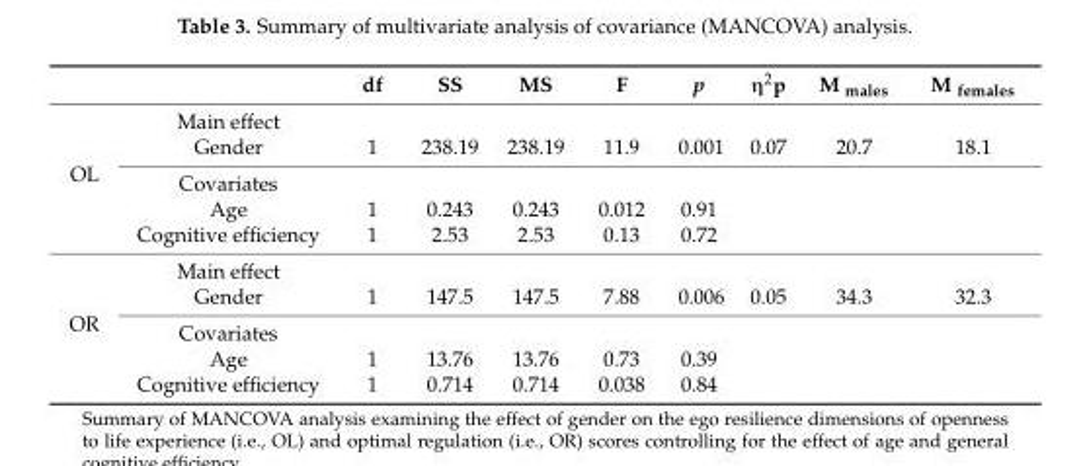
<table><thead><tr><td></td><td></td><td>df</td><td>SS</td><td>MS</td><td>F</td><td>p</td><td>η<sup>2</sup>p</td><td>M <sub>males</sub></td><td>M <sub>females</sub></td></tr></thead><tbody><tr><td rowspan="5">OL</td><td>Main effect</td><td></td><td></td><td></td><td></td><td></td><td></td><td></td><td></td></tr><tr><td>Gender</td><td>1</td><td>238.19</td><td>238.19</td><td>11.9</td><td>0.001</td><td>0.07</td><td>20.7</td><td>18.1</td></tr><tr><td>Covariates</td><td></td><td></td><td></td><td></td><td></td><td></td><td></td><td></td></tr><tr><td>Age</td><td>1</td><td>0.243</td><td>0.243</td><td>0.012</td><td>0.91</td><td></td><td></td><td></td></tr><tr><td>Cognitive efficiency</td><td>1</td><td>2.53</td><td>2.53</td><td>0.13</td><td>0.72</td><td></td><td></td><td></td></tr><tr><td rowspan="5">OR</td><td>Main effect</td><td></td><td></td><td></td><td></td><td></td><td></td><td></td><td></td></tr><tr><td>Gender</td><td>1</td><td>147.5</td><td>147.5</td><td>7.88</td><td>0.006</td><td>0.05</td><td>34.3</td><td>32.3</td></tr><tr><td>Covariates</td><td></td><td></td><td></td><td></td><td></td><td></td><td></td><td></td></tr><tr><td>Age</td><td>1</td><td>13.76</td><td>13.76</td><td>0.73</td><td>0.39</td><td></td><td></td><td></td></tr><tr><td>Cognitive efficiency</td><td>1</td><td>0.714</td><td>0.714</td><td>0.038</td><td>0.84</td><td></td><td></td><td></td></tr></tbody></table>